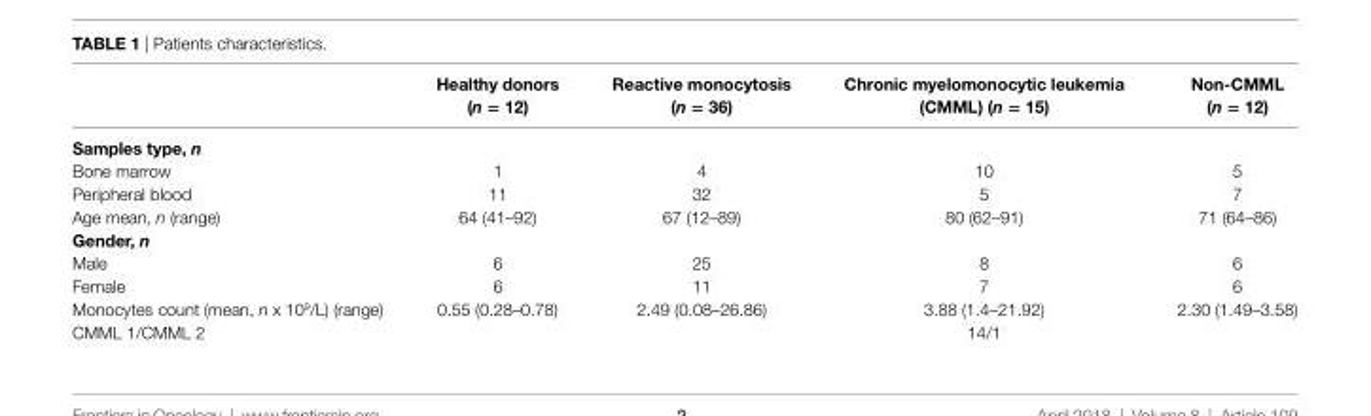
<table><thead><tr><td></td><td>healthy donors (n = 12)</td><td>reactive monocytosis (n = 36)</td><td>chronic myelomonocytic leukemia (cMMl) (n = 15)</td><td>non-cMMl (n = 12)</td></tr></thead><tbody><tr><td colspan="5">samples type, n</td></tr><tr><td>Bone marrow</td><td>1</td><td>4</td><td>10</td><td>5</td></tr><tr><td>Peripheral blood</td><td>11</td><td>32</td><td>5</td><td>7</td></tr><tr><td>Age mean, n (range)</td><td>64 (41–92)</td><td>67 (12–89)</td><td>80 (62–91)</td><td>71 (64–86)</td></tr><tr><td colspan="5">gender, n</td></tr><tr><td>Male</td><td>6</td><td>25</td><td>8</td><td>6</td></tr><tr><td>Female</td><td>6</td><td>11</td><td>7</td><td>6</td></tr><tr><td>Monocytes count (mean, n x 10<sup>9</sup>/L) (range)</td><td>0.55 (0.28–0.78)</td><td>2.49 (0.08–26.86)</td><td>3.88 (1.4–21.92)</td><td>2.30 (1.49–3.58)</td></tr><tr><td>CMML 1/CMML 2</td><td></td><td></td><td>14/1</td><td></td></tr></tbody></table>